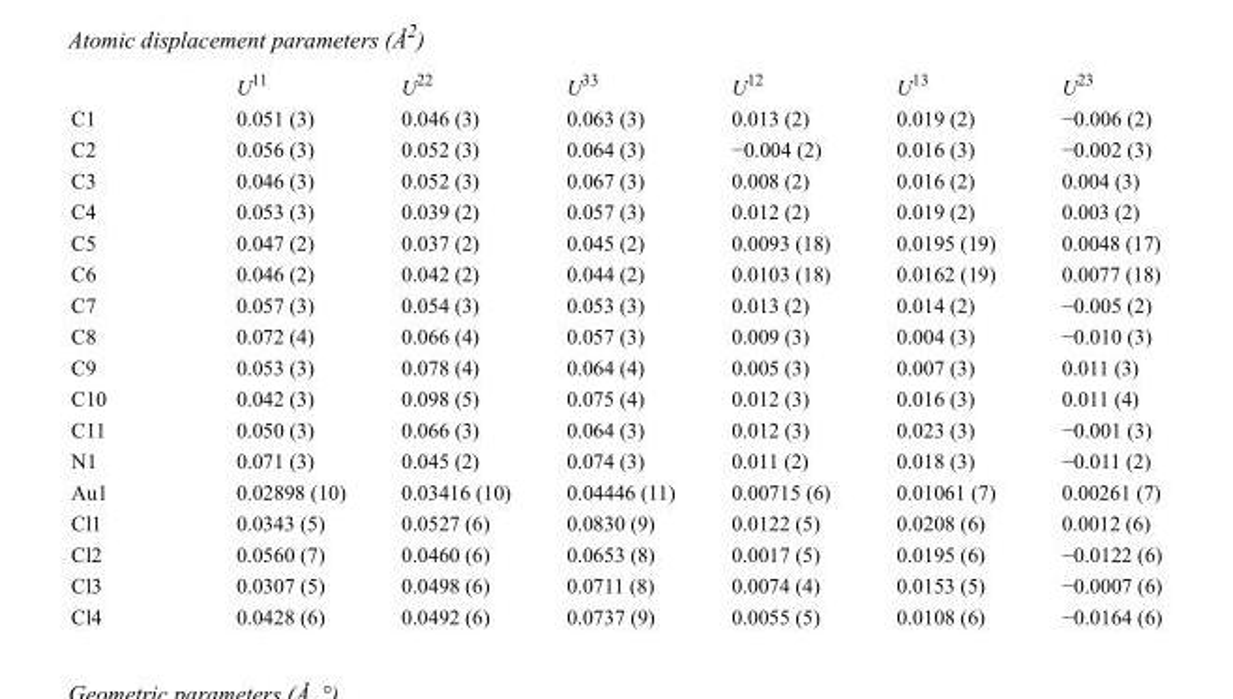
<table><thead><tr><td></td><td>U<sup>11</sup></td><td>U<sup>22</sup></td><td>U<sup>33</sup></td><td>U<sup>12</sup></td><td>U<sup>13</sup></td><td>U<sup>23</sup></td></tr></thead><tbody><tr><td>C1</td><td>0.051 (3)</td><td>0.046 (3)</td><td>0.063 (3)</td><td>0.013 (2)</td><td>0.019 (2)</td><td>−0.006 (2)</td></tr><tr><td>C2</td><td>0.056 (3)</td><td>0.052 (3)</td><td>0.064 (3)</td><td>−0.004 (2)</td><td>0.016 (3)</td><td>−0.002 (3)</td></tr><tr><td>C3</td><td>0.046 (3)</td><td>0.052 (3)</td><td>0.067 (3)</td><td>0.008 (2)</td><td>0.016 (2)</td><td>0.004 (3)</td></tr><tr><td>C4</td><td>0.053 (3)</td><td>0.039 (2)</td><td>0.057 (3)</td><td>0.012 (2)</td><td>0.019 (2)</td><td>0.003 (2)</td></tr><tr><td>C5</td><td>0.047 (2)</td><td>0.037 (2)</td><td>0.045 (2)</td><td>0.0093 (18)</td><td>0.0195 (19)</td><td>0.0048 (17)</td></tr><tr><td>C6</td><td>0.046 (2)</td><td>0.042 (2)</td><td>0.044 (2)</td><td>0.0103 (18)</td><td>0.0162 (19)</td><td>0.0077 (18)</td></tr><tr><td>C7</td><td>0.057 (3)</td><td>0.054 (3)</td><td>0.053 (3)</td><td>0.013 (2)</td><td>0.014 (2)</td><td>−0.005 (2)</td></tr><tr><td>C8</td><td>0.072 (4)</td><td>0.066 (4)</td><td>0.057 (3)</td><td>0.009 (3)</td><td>0.004 (3)</td><td>−0.010 (3)</td></tr><tr><td>C9</td><td>0.053 (3)</td><td>0.078 (4)</td><td>0.064 (4)</td><td>0.005 (3)</td><td>0.007 (3)</td><td>0.011 (3)</td></tr><tr><td>C10</td><td>0.042 (3)</td><td>0.098 (5)</td><td>0.075 (4)</td><td>0.012 (3)</td><td>0.016 (3)</td><td>0.011 (4)</td></tr><tr><td>C11</td><td>0.050 (3)</td><td>0.066 (3)</td><td>0.064 (3)</td><td>0.012 (3)</td><td>0.023 (3)</td><td>−0.001 (3)</td></tr><tr><td>N1</td><td>0.071 (3)</td><td>0.045 (2)</td><td>0.074 (3)</td><td>0.011 (2)</td><td>0.018 (3)</td><td>−0.011 (2)</td></tr><tr><td>Au1</td><td>0.02898 (10)</td><td>0.03416 (10)</td><td>0.04446 (11)</td><td>0.00715 (6)</td><td>0.01061 (7)</td><td>0.00261 (7)</td></tr><tr><td>Cl1</td><td>0.0343 (5)</td><td>0.0527 (6)</td><td>0.0830 (9)</td><td>0.0122 (5)</td><td>0.0208 (6)</td><td>0.0012 (6)</td></tr><tr><td>Cl2</td><td>0.0560 (7)</td><td>0.0460 (6)</td><td>0.0653 (8)</td><td>0.0017 (5)</td><td>0.0195 (6)</td><td>−0.0122 (6)</td></tr><tr><td>Cl3</td><td>0.0307 (5)</td><td>0.0498 (6)</td><td>0.0711 (8)</td><td>0.0074 (4)</td><td>0.0153 (5)</td><td>−0.0007 (6)</td></tr><tr><td>Cl4</td><td>0.0428 (6)</td><td>0.0492 (6)</td><td>0.0737 (9)</td><td>0.0055 (5)</td><td>0.0108 (6)</td><td>−0.0164 (6)</td></tr></tbody></table>